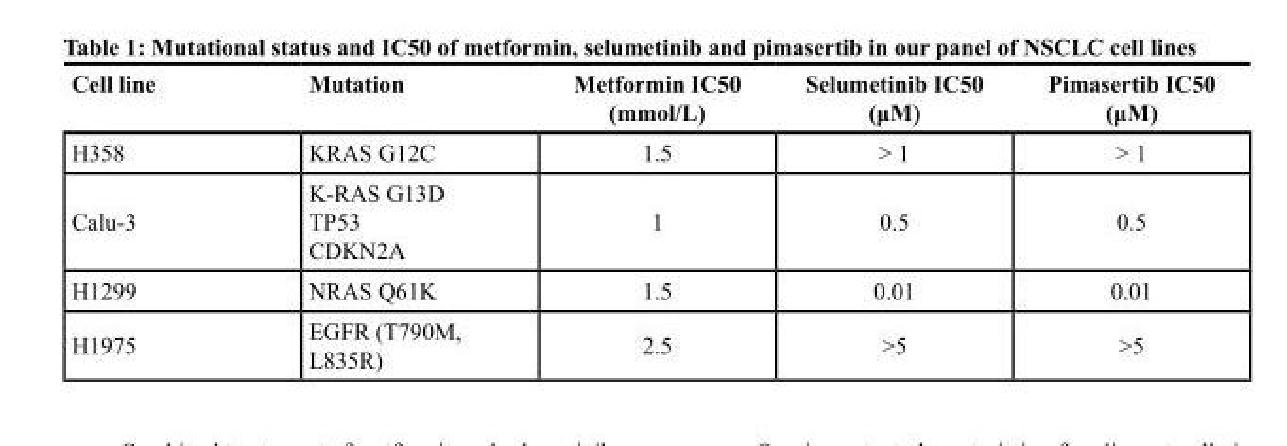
<table><thead><tr><td>Cell line</td><td>Mutation</td><td>Metformin IC50 (mmol/L)</td><td>Selumetinib IC50 (μM)</td><td>Pimasertib IC50 (μM)</td></tr></thead><tbody><tr><td>H358</td><td>KRAS G12C</td><td>1.5</td><td>&gt; 1</td><td>&gt; 1</td></tr><tr><td>Calu-3</td><td>K-RAS G13D TP53 CDKN2A</td><td>1</td><td>0.5</td><td>0.5</td></tr><tr><td>H1299</td><td>NRAS Q61K</td><td>1.5</td><td>0.01</td><td>0.01</td></tr><tr><td>H1975</td><td>EGFR (T790M, L835R)</td><td>2.5</td><td>&gt;5</td><td>&gt;5</td></tr></tbody></table>